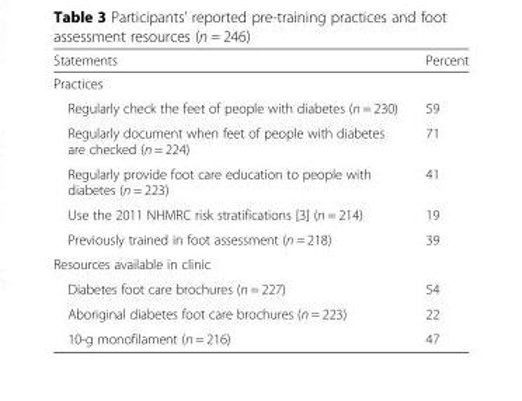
<table><thead><tr><td>Statements</td><td>Percent</td></tr></thead><tbody><tr><td colspan="2">Practices</td></tr><tr><td>Regularly check the feet of people with diabetes (n = 230)</td><td>59</td></tr><tr><td>Regularly document when feet of people with diabetes are checked (n = 224)</td><td>71</td></tr><tr><td>Regularly provide foot care education to people with diabetes (n = 223)</td><td>41</td></tr><tr><td>Use the 2011 NHMRC risk stratifications [3] (n = 214)</td><td>19</td></tr><tr><td>Previously trained in foot assessment (n = 218)</td><td>39</td></tr><tr><td colspan="2">Resources available in clinic</td></tr><tr><td>Diabetes foot care brochures (n = 227)</td><td>54</td></tr><tr><td>Aboriginal diabetes foot care brochures (n = 223)</td><td>22</td></tr><tr><td>10-g monofilament (n = 216)</td><td>47</td></tr></tbody></table>